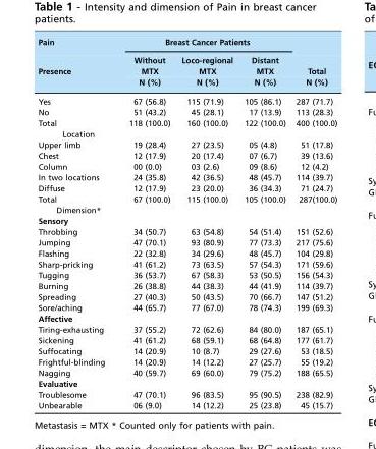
<table><thead><tr><td rowspan="3">Pain Presence</td><td colspan="3">Breast Cancer Patients</td><td rowspan="3">Total N (%)</td></tr><tr><td rowspan="2">Without MTX N (%)</td><td rowspan="2">Loco-regional MTX N (%)</td><td rowspan="2">Distant MTX N (%)</td></tr><tr></tr></thead><tbody><tr><td>Yes</td><td>67 (56.8)</td><td>115 (71.9)</td><td>105 (86.1)</td><td>287 (71.7)</td></tr><tr><td>No</td><td>51 (43.2)</td><td>45 (28.1)</td><td>17 (13.9)</td><td>113 (28.3)</td></tr><tr><td>Total</td><td>118 (100.0)</td><td>160 (100.0)</td><td>122 (100.0)</td><td>400 (100.0)</td></tr><tr><td colspan="5">Location</td></tr><tr><td>Upper limb</td><td>19 (28.4)</td><td>27 (23.5)</td><td>05 (4.8)</td><td>51 (17.8)</td></tr><tr><td>Chest</td><td>12 (17.9)</td><td>20 (17.4)</td><td>07 (6.7)</td><td>39 (13.6)</td></tr><tr><td>Column</td><td>00 (0.0)</td><td>03 (2.6)</td><td>09 (8.6)</td><td>12 (4.2)</td></tr><tr><td>In two locations</td><td>24 (35.8)</td><td>42 (36.5)</td><td>48 (45.7)</td><td>114 (39.7)</td></tr><tr><td>Diffuse</td><td>12 (17.9)</td><td>23 (20.0)</td><td>36 (34.3)</td><td>71 (24.7)</td></tr><tr><td>Total</td><td>67 (100.0)</td><td>115 (100.0)</td><td>105 (100.0)</td><td>287(100.0)</td></tr><tr><td colspan="5">Dimension*</td></tr><tr><td colspan="5">Sensory</td></tr><tr><td>Throbbing</td><td>34 (50.7)</td><td>63 (54.8)</td><td>54 (51.4)</td><td>151 (52.6)</td></tr><tr><td>Jumping</td><td>47 (70.1)</td><td>93 (80.9)</td><td>77 (73.3)</td><td>217 (75.6)</td></tr><tr><td>Flashing</td><td>22 (32.8)</td><td>34 (29.6)</td><td>48 (45.7)</td><td>104 (29.8)</td></tr><tr><td>Sharp-pricking</td><td>41 (61.2)</td><td>73 (63.5)</td><td>57 (54.3)</td><td>171 (59.6)</td></tr><tr><td>Tugging</td><td>36 (53.7)</td><td>67 (58.3)</td><td>53 (50.5)</td><td>156 (54.3)</td></tr><tr><td>Burning</td><td>26 (38.8)</td><td>44 (38.3)</td><td>44 (41.9)</td><td>114 (39.7)</td></tr><tr><td>Spreading</td><td>27 (40.3)</td><td>50 (43.5)</td><td>70 (66.7)</td><td>147 (51.2)</td></tr><tr><td>Sore/aching</td><td>44 (65.7)</td><td>77 (67.0)</td><td>78 (74.3)</td><td>199 (69.3)</td></tr><tr><td colspan="5">Affective</td></tr><tr><td>Tiring-exhausting</td><td>37 (55.2)</td><td>72 (62.6)</td><td>84 (80.0)</td><td>187 (65.1)</td></tr><tr><td>Sickening</td><td>41 (61.2)</td><td>68 (59.1)</td><td>68 (64.8)</td><td>177 (61.7)</td></tr><tr><td>Suffocating</td><td>14 (20.9)</td><td>10 (8.7)</td><td>29 (27.6)</td><td>53 (18.5)</td></tr><tr><td>Frightful-blinding</td><td>14 (20.9)</td><td>14 (12.2)</td><td>27 (25.7)</td><td>55 (19.2)</td></tr><tr><td>Nagging</td><td>40 (59.7)</td><td>69 (60.0)</td><td>79 (75.2)</td><td>188 (65.5)</td></tr><tr><td colspan="5">Evaluative</td></tr><tr><td>Troublesome</td><td>47 (70.1)</td><td>96 (83.5)</td><td>95 (90.5)</td><td>238 (82.9)</td></tr><tr><td>Unbearable</td><td>06 (9.0)</td><td>14 (12.2)</td><td>25 (23.8)</td><td>45 (15.7)</td></tr></tbody></table>